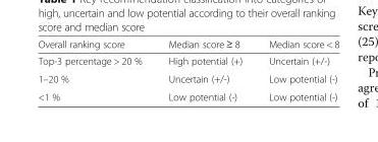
<table><thead><tr><td>Overall ranking score</td><td>Median score ≥ 8</td><td>Median score &lt; 8</td></tr></thead><tbody><tr><td>Top-3 percentage &gt; 20 %</td><td>High potential (+)</td><td>Uncertain (+/-)</td></tr><tr><td>1–20 %</td><td>Uncertain (+/-)</td><td>Low potential (-)</td></tr><tr><td>&lt;1 %</td><td>Low potential (-)</td><td>Low potential (-)</td></tr></tbody></table>